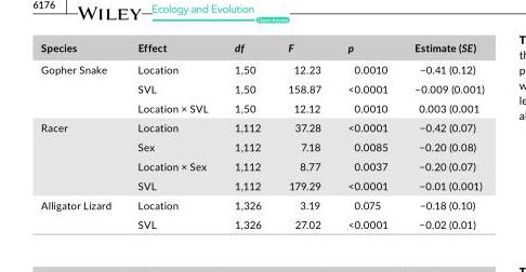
<table><thead><tr><td>Species</td><td>Effect</td><td>df</td><td>F</td><td>p</td><td>Estimate (SE)</td></tr></thead><tbody><tr><td rowspan="3">Gopher Snake</td><td>Location</td><td>1,50</td><td>12.23</td><td>0.0010</td><td>−0.41 (0.12)</td></tr><tr><td>SVL</td><td>1,50</td><td>158.87</td><td>&lt;0.0001</td><td>−0.009 (0.001)</td></tr><tr><td>Location × SVL</td><td>1,50</td><td>12.12</td><td>0.0010</td><td>0.003 (0.001</td></tr><tr><td rowspan="4">Racer</td><td>Location</td><td>1,112</td><td>37.28</td><td>&lt;0.0001</td><td>−0.42 (0.07)</td></tr><tr><td>Sex</td><td>1,112</td><td>7.18</td><td>0.0085</td><td>−0.20 (0.08)</td></tr><tr><td>Location × Sex</td><td>1,112</td><td>8.77</td><td>0.0037</td><td>−0.20 (0.07)</td></tr><tr><td>SVL</td><td>1,112</td><td>179.29</td><td>&lt;0.0001</td><td>−0.01 (0.001)</td></tr><tr><td rowspan="2">Alligator Lizard</td><td>Location</td><td>1,326</td><td>3.19</td><td>0.075</td><td>−0.18 (0.10)</td></tr><tr><td>SVL</td><td>1,326</td><td>27.02</td><td>&lt;0.0001</td><td>−0.02 (0.01)</td></tr></tbody></table>